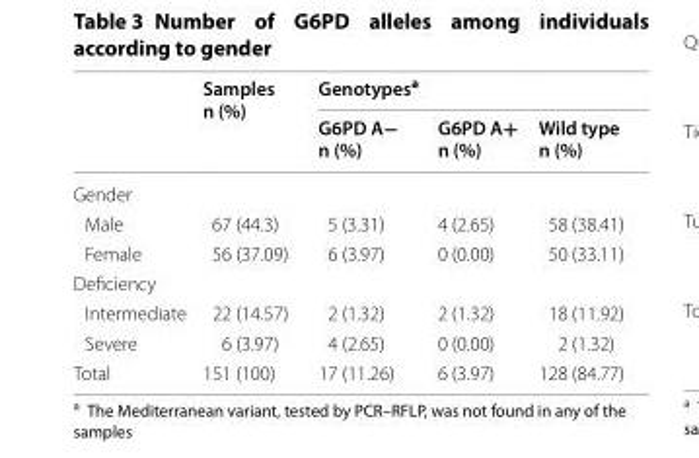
<table><thead><tr><td rowspan="2"></td><td rowspan="2">Samples n (%)</td><td colspan="3">Genotypes<sup>a</sup></td></tr><tr><td>G6PD A− n (%)</td><td>G6PD A+ n (%)</td><td>Wild type n (%)</td></tr></thead><tbody><tr><td colspan="5">Gender</td></tr><tr><td>Male</td><td>67 (44.3)</td><td>5 (3.31)</td><td>4 (2.65)</td><td>58 (38.41)</td></tr><tr><td>Female</td><td>56 (37.09)</td><td>6 (3.97)</td><td>0 (0.00)</td><td>50 (33.11)</td></tr><tr><td colspan="5">Deficiency</td></tr><tr><td>Intermediate</td><td>22 (14.57)</td><td>2 (1.32)</td><td>2 (1.32)</td><td>18 (11.92)</td></tr><tr><td>Severe</td><td>6 (3.97)</td><td>4 (2.65)</td><td>0 (0.00)</td><td>2 (1.32)</td></tr><tr><td>Total</td><td>151 (100)</td><td>17 (11.26)</td><td>6 (3.97)</td><td>128 (84.77)</td></tr></tbody></table>